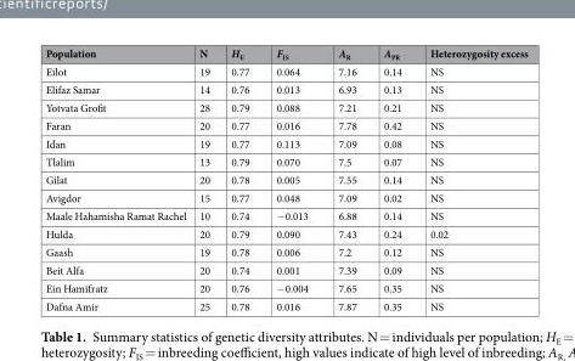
<table><thead><tr><td>Population</td><td>N</td><td>H<sub>E</sub></td><td>F<sub>IS</sub></td><td>A<sub>R</sub></td><td>A<sub>PR</sub></td><td>Heterozygosity excess</td></tr></thead><tbody><tr><td>Eilot</td><td>19</td><td>0.77</td><td>0.064</td><td>7.16</td><td>0.14</td><td>NS</td></tr><tr><td>Elifaz Samar</td><td>14</td><td>0.76</td><td>0.013</td><td>6.93</td><td>0.13</td><td>NS</td></tr><tr><td>Yotvata Grofit</td><td>28</td><td>0.79</td><td>0.088</td><td>7.21</td><td>0.21</td><td>NS</td></tr><tr><td>Faran</td><td>20</td><td>0.77</td><td>0.016</td><td>7.78</td><td>0.42</td><td>NS</td></tr><tr><td>Idan</td><td>19</td><td>0.77</td><td>0.113</td><td>7.09</td><td>0.08</td><td>NS</td></tr><tr><td>Tlalim</td><td>13</td><td>0.79</td><td>0.070</td><td>7.5</td><td>0.07</td><td>NS</td></tr><tr><td>Gilat</td><td>20</td><td>0.78</td><td>0.005</td><td>7.55</td><td>0.14</td><td>NS</td></tr><tr><td>Avigdor</td><td>15</td><td>0.77</td><td>0.048</td><td>7.09</td><td>0.02</td><td>NS</td></tr><tr><td>Maale Hahamisha Ramat Rachel</td><td>10</td><td>0.74</td><td>−0.013</td><td>6.88</td><td>0.14</td><td>NS</td></tr><tr><td>Hulda</td><td>20</td><td>0.79</td><td>0.090</td><td>7.43</td><td>0.24</td><td>0.02</td></tr><tr><td>Gaash</td><td>19</td><td>0.78</td><td>0.006</td><td>7.2</td><td>0.12</td><td>NS</td></tr><tr><td>Beit Alfa</td><td>20</td><td>0.74</td><td>0.001</td><td>7.39</td><td>0.09</td><td>NS</td></tr><tr><td>Ein Hamifratz</td><td>20</td><td>0.76</td><td>−0.004</td><td>7.65</td><td>0.35</td><td>NS</td></tr><tr><td>Dafna Amir</td><td>25</td><td>0.78</td><td>0.016</td><td>7.87</td><td>0.35</td><td>NS</td></tr></tbody></table>